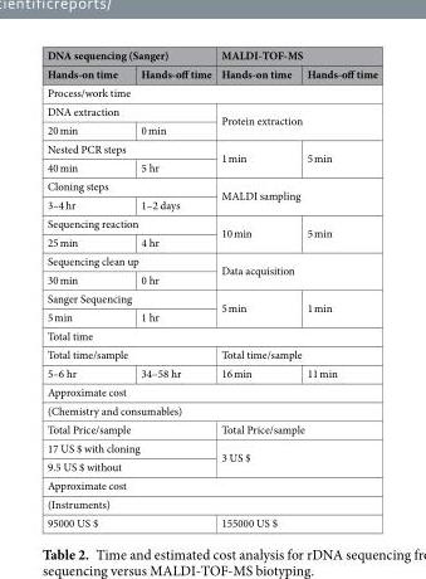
<table><thead><tr><td colspan="2">DNA sequencing (Sanger)</td><td colspan="2">MALDI-TOF-MS</td></tr><tr><td>Hands-on time</td><td>Hands-off time</td><td>Hands-on time</td><td>Hands-off time</td></tr></thead><tbody><tr><td colspan="4">Process/work time</td></tr><tr><td colspan="2">DNA extraction</td><td rowspan="2" colspan="2">Protein extraction</td></tr><tr><td>20 min</td><td>0 min</td></tr><tr><td colspan="2">Nested PCR steps</td><td rowspan="2">1 min</td><td rowspan="2">5 min</td></tr><tr><td>40 min</td><td>5 hr</td></tr><tr><td colspan="2">Cloning steps</td><td rowspan="2" colspan="2">MALDI sampling</td></tr><tr><td>3–4 hr</td><td>1–2 days</td></tr><tr><td colspan="2">Sequencing reaction</td><td rowspan="2">10 min</td><td rowspan="2">5 min</td></tr><tr><td>25 min</td><td>4 hr</td></tr><tr><td colspan="2">Sequencing clean up</td><td rowspan="2" colspan="2">Data acquisition</td></tr><tr><td>30 min</td><td>0 hr</td></tr><tr><td colspan="2">Sanger Sequencing</td><td rowspan="2">5 min</td><td rowspan="2">1 min</td></tr><tr><td>5 min</td><td>1 hr</td></tr><tr><td colspan="4">Total time</td></tr><tr><td colspan="2">Total time/sample</td><td colspan="2">Total time/sample</td></tr><tr><td>5–6 hr</td><td>34–58 hr</td><td>16 min</td><td>11 min</td></tr><tr><td colspan="4">Approximate cost</td></tr><tr><td colspan="4">(Chemistry and consumables)</td></tr><tr><td colspan="2">Total Price/sample</td><td colspan="2">Total Price/sample</td></tr><tr><td colspan="2">17 US $ with cloning</td><td rowspan="2" colspan="2">3 US $</td></tr><tr><td colspan="2">9.5 US $ without</td></tr><tr><td colspan="4">Approximate cost</td></tr><tr><td colspan="4">(Instruments)</td></tr><tr><td colspan="2">95000 US $</td><td colspan="2">155000 US $</td></tr></tbody></table>